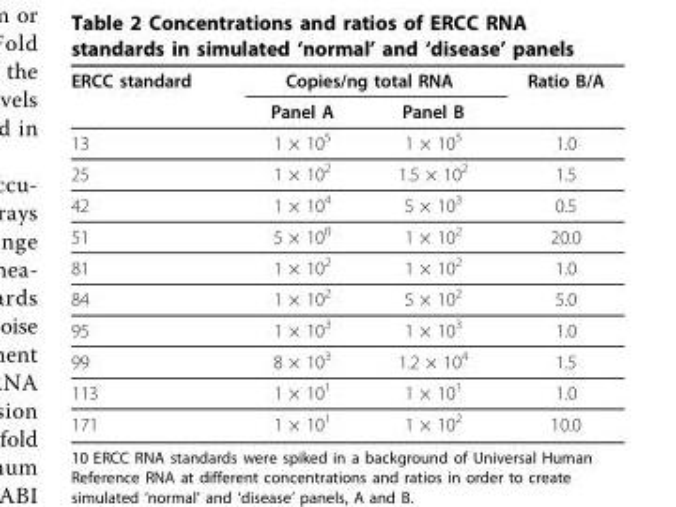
<table><thead><tr><td rowspan="2">ERCC standard</td><td colspan="2">Copies/ng total RNA</td><td rowspan="2">Ratio B/A</td></tr><tr><td>Panel A</td><td>Panel B</td></tr></thead><tbody><tr><td>13</td><td>1 × 10<sup>5</sup></td><td>1 × 10<sup>5</sup></td><td>1.0</td></tr><tr><td>25</td><td>1 × 10<sup>2</sup></td><td>1.5 × 10<sup>2</sup></td><td>1.5</td></tr><tr><td>42</td><td>1 × 10<sup>4</sup></td><td>5 × 10<sup>3</sup></td><td>0.5</td></tr><tr><td>51</td><td>5 × 10<sup>0</sup></td><td>1 × 10<sup>2</sup></td><td>20.0</td></tr><tr><td>81</td><td>1 × 10<sup>2</sup></td><td>1 × 10<sup>2</sup></td><td>1.0</td></tr><tr><td>84</td><td>1 × 10<sup>2</sup></td><td>5 × 10<sup>2</sup></td><td>5.0</td></tr><tr><td>95</td><td>1 × 10<sup>3</sup></td><td>1 × 10<sup>3</sup></td><td>1.0</td></tr><tr><td>99</td><td>8 × 10<sup>3</sup></td><td>1.2 × 10<sup>4</sup></td><td>1.5</td></tr><tr><td>113</td><td>1 × 10<sup>1</sup></td><td>1 × 10<sup>1</sup></td><td>1.0</td></tr><tr><td>171</td><td>1 × 10<sup>1</sup></td><td>1 × 10<sup>2</sup></td><td>10.0</td></tr></tbody></table>